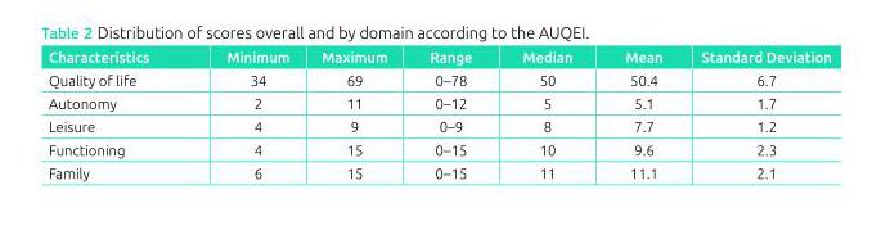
<table><thead><tr><td>Characteristics</td><td>Minimum</td><td>Maximum</td><td>Range</td><td>Median</td><td>Mean</td><td>Standard Deviation</td></tr></thead><tbody><tr><td>Quality of life</td><td>34</td><td>69</td><td>0–78</td><td>50</td><td>50.4</td><td>6.7</td></tr><tr><td>Autonomy</td><td>2</td><td>11</td><td>0–12</td><td>5</td><td>5.1</td><td>1.7</td></tr><tr><td>Leisure</td><td>4</td><td>9</td><td>0–9</td><td>8</td><td>7.7</td><td>1.2</td></tr><tr><td>Functioning</td><td>4</td><td>15</td><td>0–15</td><td>10</td><td>9.6</td><td>2.3</td></tr><tr><td>Family</td><td>6</td><td>15</td><td>0–15</td><td>11</td><td>11.1</td><td>2.1</td></tr></tbody></table>